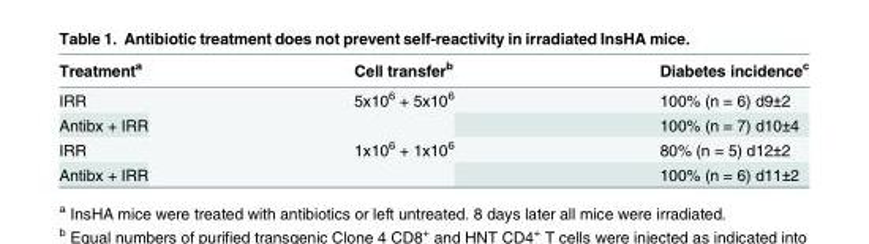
<table><thead><tr><td>Treatment<sup>a</sup></td><td>Cell transfer<sup>b</sup></td><td>Diabetes incidence<sup>c</sup></td></tr></thead><tbody><tr><td>IRR</td><td rowspan="2">5x10<sup>6</sup> + 5x10<sup>6</sup></td><td>100% (n = 6) d9±2</td></tr><tr><td>Antibx + IRR</td><td>100% (n = 7) d10±4</td></tr><tr><td>IRR</td><td rowspan="2">1x10<sup>6</sup> + 1x10<sup>6</sup></td><td>80% (n = 5) d12±2</td></tr><tr><td>Antibx + IRR</td><td>100% (n = 6) d11±2</td></tr></tbody></table>